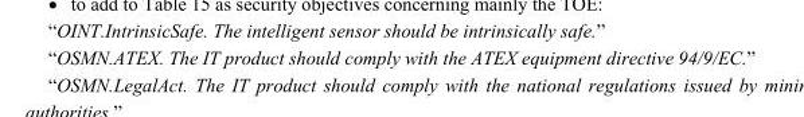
<table><tbody><tr><td>“OSMN.ATEX.</td><td>The IT product should comply with the ATEX equipment directive 94/9/EC.”</td></tr></tbody></table>